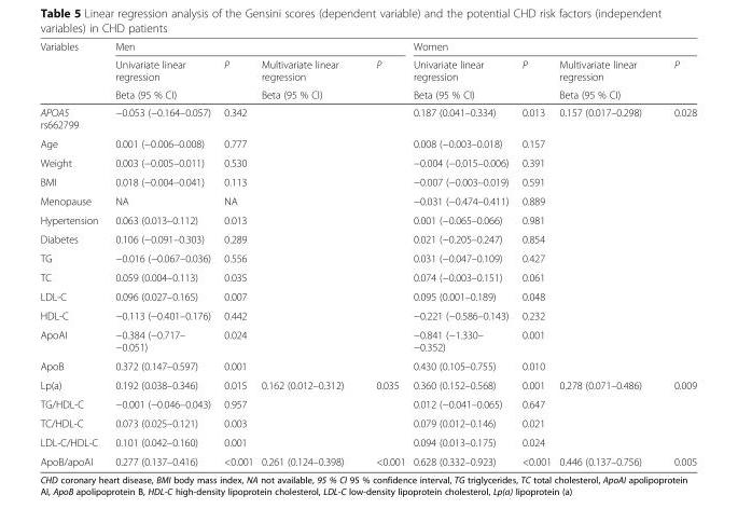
<table><thead><tr><td rowspan="3">Variables</td><td colspan="4">Men</td><td colspan="4">Women</td></tr><tr><td rowspan="2">Univariate linear regression Beta (95 % CI)</td><td rowspan="2">P</td><td rowspan="2">Multivariate linear regression Beta (95 % CI)</td><td rowspan="2">P</td><td rowspan="2">Univariate linear regression Beta (95 % CI)</td><td rowspan="2">P</td><td rowspan="2">Multivariate linear regression Beta (95 % CI)</td><td rowspan="2">P</td></tr><tr></tr></thead><tbody><tr><td>APOA5 rs662799</td><td>−0.053 (−0.164–0.057)</td><td>0.342</td><td></td><td></td><td>0.187 (0.041–0.334)</td><td>0.013</td><td>0.157 (0.017–0.298)</td><td>0.028</td></tr><tr><td>Age</td><td>0.001 (−0.006–0.008)</td><td>0.777</td><td></td><td></td><td>0.008 (−0.003–0.018)</td><td>0.157</td><td></td><td></td></tr><tr><td>Weight</td><td>0.003 (−0.005–0.011)</td><td>0.530</td><td></td><td></td><td>−0.004 (−0.015–0.006)</td><td>0.391</td><td></td><td></td></tr><tr><td>BMI</td><td>0.018 (−0.004–0.041)</td><td>0.113</td><td></td><td></td><td>−0.007 (−0.003–0.019)</td><td>0.591</td><td></td><td></td></tr><tr><td>Menopause</td><td>NA</td><td>NA</td><td></td><td></td><td>−0.031 (−0.474–0.411)</td><td>0.889</td><td></td><td></td></tr><tr><td>Hypertension</td><td>0.063 (0.013–0.112)</td><td>0.013</td><td></td><td></td><td>0.001 (−0.065–0.066)</td><td>0.981</td><td></td><td></td></tr><tr><td>Diabetes</td><td>0.106 (−0.091–0.303)</td><td>0.289</td><td></td><td></td><td>0.021 (−0.205–0.247)</td><td>0.854</td><td></td><td></td></tr><tr><td>TG</td><td>−0.016 (−0.067–0.036)</td><td>0.556</td><td></td><td></td><td>0.031 (−0.047–0.109)</td><td>0.427</td><td></td><td></td></tr><tr><td>TC</td><td>0.059 (0.004–0.113)</td><td>0.035</td><td></td><td></td><td>0.074 (−0.003–0.151)</td><td>0.061</td><td></td><td></td></tr><tr><td>LDL-C</td><td>0.096 (0.027–0.165)</td><td>0.007</td><td></td><td></td><td>0.095 (0.001–0.189)</td><td>0.048</td><td></td><td></td></tr><tr><td>HDL-C</td><td>−0.113 (−0.401–0.176)</td><td>0.442</td><td></td><td></td><td>−0.221 (−0.586–0.143)</td><td>0.232</td><td></td><td></td></tr><tr><td>ApoAI</td><td>−0.384 (−0.717– −0.051)</td><td>0.024</td><td></td><td></td><td>−0.841 (−1.330– −0.352)</td><td>0.001</td><td></td><td></td></tr><tr><td>ApoB</td><td>0.372 (0.147–0.597)</td><td>0.001</td><td></td><td></td><td>0.430 (0.105–0.755)</td><td>0.010</td><td></td><td></td></tr><tr><td>Lp(a)</td><td>0.192 (0.038–0.346)</td><td>0.015</td><td>0.162 (0.012–0.312)</td><td>0.035</td><td>0.360 (0.152–0.568)</td><td>0.001</td><td>0.278 (0.071–0.486)</td><td>0.009</td></tr><tr><td>TG/HDL-C</td><td>−0.001 (−0.046–0.043)</td><td>0.957</td><td></td><td></td><td>0.012 (−0.041–0.065)</td><td>0.647</td><td></td><td></td></tr><tr><td>TC/HDL-C</td><td>0.073 (0.025–0.121)</td><td>0.003</td><td></td><td></td><td>0.079 (0.012–0.146)</td><td>0.021</td><td></td><td></td></tr><tr><td>LDL-C/HDL-C</td><td>0.101 (0.042–0.160)</td><td>0.001</td><td></td><td></td><td>0.094 (0.013–0.175)</td><td>0.024</td><td></td><td></td></tr><tr><td>ApoB/apoAI</td><td>0.277 (0.137–0.416)</td><td>&lt;0.001</td><td>0.261 (0.124–0.398)</td><td>&lt;0.001</td><td>0.628 (0.332–0.923)</td><td>&lt;0.001</td><td>0.446 (0.137–0.756)</td><td>0.005</td></tr></tbody></table>